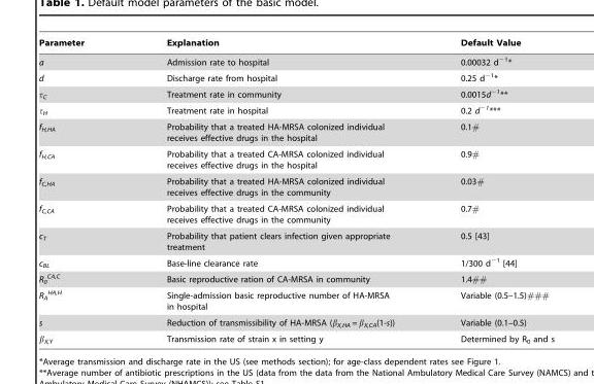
<table><thead><tr><td>Parameter</td><td>Explanation</td><td>Default Value</td></tr></thead><tbody><tr><td>a</td><td>Admission rate to hospital</td><td>0.00032 d<sup>−1</sup>*</td></tr><tr><td>d</td><td>Discharge rate from hospital</td><td>0.25 d<sup>−1</sup>*</td></tr><tr><td>τ<sub>C</sub></td><td>Treatment rate in community</td><td>0.0015d<sup>−1</sup>**</td></tr><tr><td>τ<sub>H</sub></td><td>Treatment rate in hospital</td><td>0.2 d<sup>−1</sup>***</td></tr><tr><td>f<sub>H,HA</sub></td><td>Probability that a treated HA-MRSA colonized individual receives effective drugs in the hospital</td><td>0.1#</td></tr><tr><td>f<sub>H,CA</sub></td><td>Probability that a treated CA-MRSA colonized individual receives effective drugs in the hospital</td><td>0.9#</td></tr><tr><td>f<sub>C,HA</sub></td><td>Probability that a treated HA-MRSA colonized individual receives effective drugs in the community</td><td>0.03#</td></tr><tr><td>f<sub>C,CA</sub></td><td>Probability that a treated CA-MRSA colonized individual receives effective drugs in the community</td><td>0.7#</td></tr><tr><td>c<sub>T</sub></td><td>Probability that patient clears infection given appropriate treatment</td><td>0.5 [43]</td></tr><tr><td>c<sub>BL</sub></td><td>Base-line clearance rate</td><td>1/300 d<sup>−1</sup> [44]</td></tr><tr><td>R<sub>0</sub> <sup>CA,C</sup></td><td>Basic reproductive ration of CA-MRSA in community</td><td>1.4##</td></tr><tr><td>R<sub>A</sub> <sup>HA,H</sup></td><td>Single-admission basic reproductive number of HA-MRSA in hospital</td><td>Variable (0.5–1.5)###</td></tr><tr><td>s</td><td>Reduction of transmissibility of HA-MRSA (β<sub>X,HA</sub> = β<sub>X,CA</sub>(1-s))</td><td>Variable (0.1–0.5)</td></tr><tr><td>β<sub>X,Y</sub></td><td>Transmission rate of strain x in setting y</td><td>Determined by R<sub>0</sub> and s</td></tr></tbody></table>